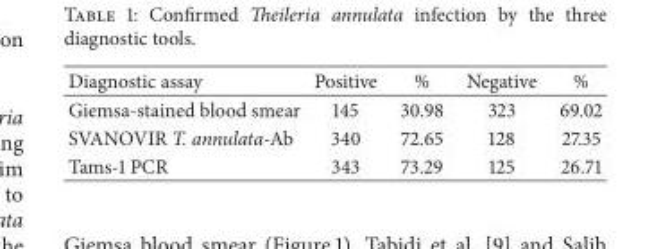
<table><thead><tr><td>Diagnostic assay</td><td>Positive</td><td>%</td><td>Negative</td><td>%</td></tr></thead><tbody><tr><td>Giemsa-stained blood smear</td><td>145</td><td>30.98</td><td>323</td><td>69.02</td></tr><tr><td>SVANOVIR T. annulata-Ab</td><td>340</td><td>72.65</td><td>128</td><td>27.35</td></tr><tr><td>Tams-1 PCR</td><td>343</td><td>73.29</td><td>125</td><td>26.71</td></tr></tbody></table>